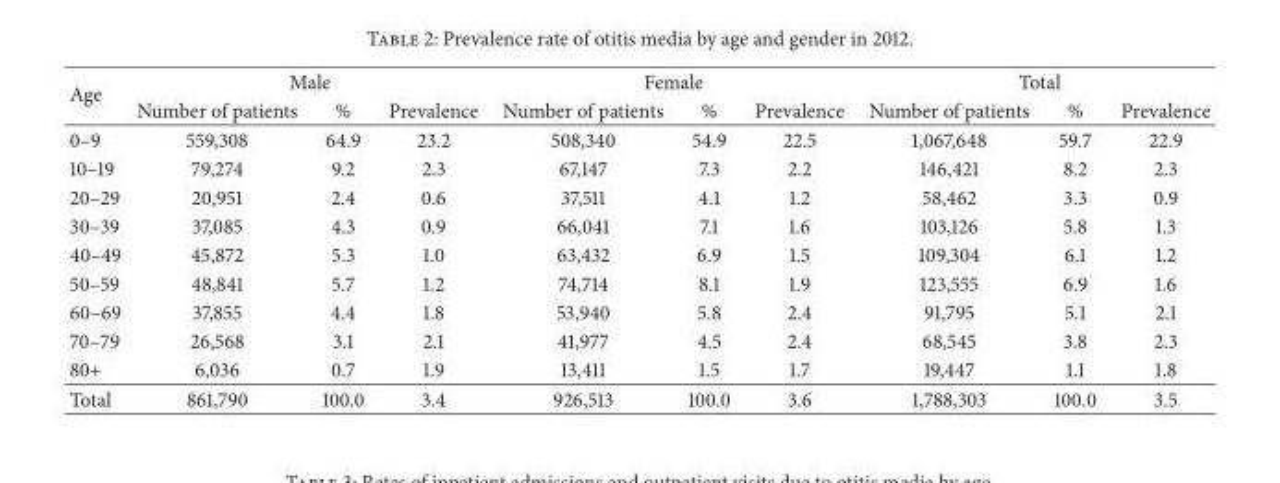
<table><thead><tr><td rowspan="2">Age</td><td colspan="3">Male</td><td colspan="3">Female</td><td colspan="3">Total</td></tr><tr><td>Number of patients</td><td>%</td><td>Prevalence</td><td>Number of patients</td><td>%</td><td>Prevalence</td><td>Number of patients</td><td>%</td><td>Prevalence</td></tr></thead><tbody><tr><td>0–9</td><td>559,308</td><td>64.9</td><td>23.2</td><td>508,340</td><td>54.9</td><td>22.5</td><td>1,067,648</td><td>59.7</td><td>22.9</td></tr><tr><td>10–19</td><td>79,274</td><td>9.2</td><td>2.3</td><td>67,147</td><td>7.3</td><td>2.2</td><td>146,421</td><td>8.2</td><td>2.3</td></tr><tr><td>20–29</td><td>20,951</td><td>2.4</td><td>0.6</td><td>37,511</td><td>4.1</td><td>1.2</td><td>58,462</td><td>3.3</td><td>0.9</td></tr><tr><td>30–39</td><td>37,085</td><td>4.3</td><td>0.9</td><td>66,041</td><td>7.1</td><td>1.6</td><td>103,126</td><td>5.8</td><td>1.3</td></tr><tr><td>40–49</td><td>45,872</td><td>5.3</td><td>1.0</td><td>63,432</td><td>6.9</td><td>1.5</td><td>109,304</td><td>6.1</td><td>1.2</td></tr><tr><td>50–59</td><td>48,841</td><td>5.7</td><td>1.2</td><td>74,714</td><td>8.1</td><td>1.9</td><td>123,555</td><td>6.9</td><td>1.6</td></tr><tr><td>60–69</td><td>37,855</td><td>4.4</td><td>1.8</td><td>53,940</td><td>5.8</td><td>2.4</td><td>91,795</td><td>5.1</td><td>2.1</td></tr><tr><td>70–79</td><td>26,568</td><td>3.1</td><td>2.1</td><td>41,977</td><td>4.5</td><td>2.4</td><td>68,545</td><td>3.8</td><td>2.3</td></tr><tr><td>80+</td><td>6,036</td><td>0.7</td><td>1.9</td><td>13,411</td><td>1.5</td><td>1.7</td><td>19,447</td><td>1.1</td><td>1.8</td></tr><tr><td>Total</td><td>861,790</td><td>100.0</td><td>3.4</td><td>926,513</td><td>100.0</td><td>3.6</td><td>1,788,303</td><td>100.0</td><td>3.5</td></tr></tbody></table>